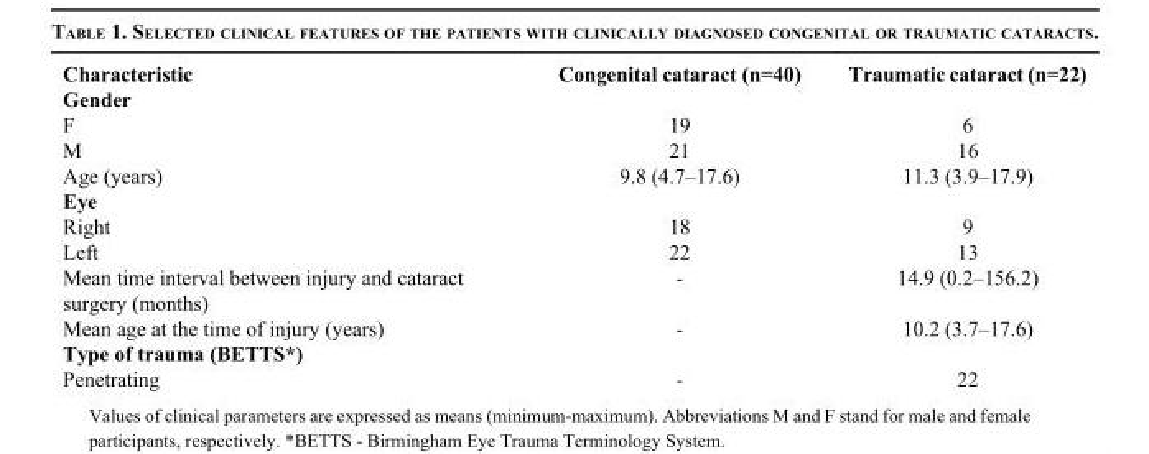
<table><thead><tr><td>Characteristic</td><td>Congenital cataract (n=40)</td><td>Traumatic cataract (n=22)</td></tr></thead><tbody><tr><td colspan="3">Gender</td></tr><tr><td>F</td><td>19</td><td>6</td></tr><tr><td>M</td><td>21</td><td>16</td></tr><tr><td>Age (years)</td><td>9.8 (4.7–17.6)</td><td>11.3 (3.9–17.9)</td></tr><tr><td colspan="3">Eye</td></tr><tr><td>Right</td><td>18</td><td>9</td></tr><tr><td>Left</td><td>22</td><td>13</td></tr><tr><td>Mean time interval between injury and cataract surgery (months)</td><td>-</td><td>14.9 (0.2–156.2)</td></tr><tr><td>Mean age at the time of injury (years)</td><td>-</td><td>10.2 (3.7–17.6)</td></tr><tr><td colspan="3">Type of trauma (BETTS*)</td></tr><tr><td>Penetrating</td><td>-</td><td>22</td></tr></tbody></table>